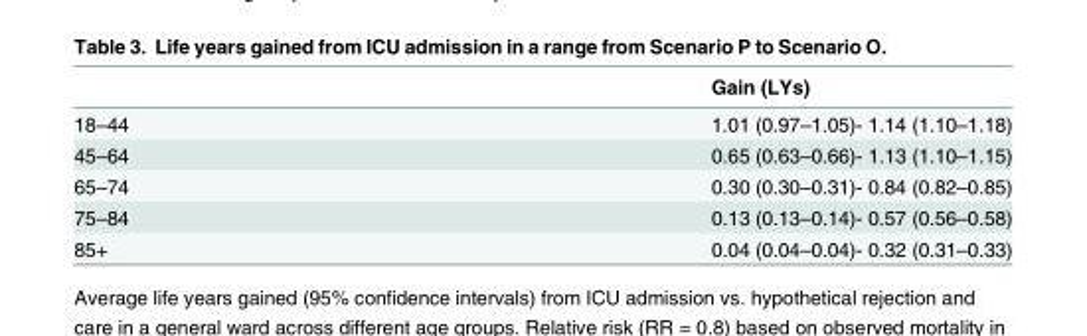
<table><thead><tr><td></td><td>Gain (LYs)</td></tr></thead><tbody><tr><td>18–44</td><td>1.01 (0.97–1.05)- 1.14 (1.10–1.18)</td></tr><tr><td>45–64</td><td>0.65 (0.63–0.66)- 1.13 (1.10–1.15)</td></tr><tr><td>65–74</td><td>0.30 (0.30–0.31)- 0.84 (0.82–0.85)</td></tr><tr><td>75–84</td><td>0.13 (0.13–0.14)- 0.57 (0.56–0.58)</td></tr><tr><td>85+</td><td>0.04 (0.04–0.04)- 0.32 (0.31–0.33)</td></tr></tbody></table>